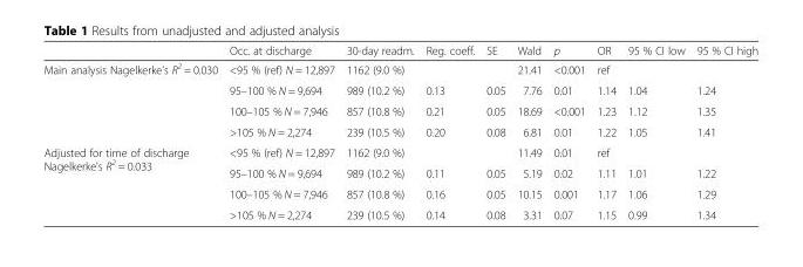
<table><thead><tr><td></td><td>Occ. at discharge</td><td>30-day readm.</td><td>Reg. coeff.</td><td>SE</td><td>Wald</td><td>p</td><td>OR</td><td>95 % CI low</td><td>95 % CI high</td></tr></thead><tbody><tr><td rowspan="4">Main analysis Nagelkerke&#x27;s R<sup>2</sup> = 0.030</td><td>&lt;95 % (ref) N = 12,897</td><td>1162 (9.0 %)</td><td></td><td></td><td>21.41</td><td>&lt;0.001</td><td>ref</td><td></td><td></td></tr><tr><td>95–100 % N = 9,694</td><td>989 (10.2 %)</td><td>0.13</td><td>0.05</td><td>7.76</td><td>0.01</td><td>1.14</td><td>1.04</td><td>1.24</td></tr><tr><td>100–105 % N = 7,946</td><td>857 (10.8 %)</td><td>0.21</td><td>0.05</td><td>18.69</td><td>&lt;0.001</td><td>1.23</td><td>1.12</td><td>1.35</td></tr><tr><td>&gt;105 % N = 2,274</td><td>239 (10.5 %)</td><td>0.20</td><td>0.08</td><td>6.81</td><td>0.01</td><td>1.22</td><td>1.05</td><td>1.41</td></tr><tr><td rowspan="4">Adjusted for time of discharge Nagelkerke&#x27;s R<sup>2</sup> = 0.033</td><td>&lt;95 % (ref) N = 12,897</td><td>1162 (9.0 %)</td><td></td><td></td><td>11.49</td><td>0.01</td><td>ref</td><td></td><td></td></tr><tr><td>95–100 % N = 9,694</td><td>989 (10.2 %)</td><td>0.11</td><td>0.05</td><td>5.19</td><td>0.02</td><td>1.11</td><td>1.01</td><td>1.22</td></tr><tr><td>100–105 % N = 7,946</td><td>857 (10.8 %)</td><td>0.16</td><td>0.05</td><td>10.15</td><td>0.001</td><td>1.17</td><td>1.06</td><td>1.29</td></tr><tr><td>&gt;105 % N = 2,274</td><td>239 (10.5 %)</td><td>0.14</td><td>0.08</td><td>3.31</td><td>0.07</td><td>1.15</td><td>0.99</td><td>1.34</td></tr></tbody></table>